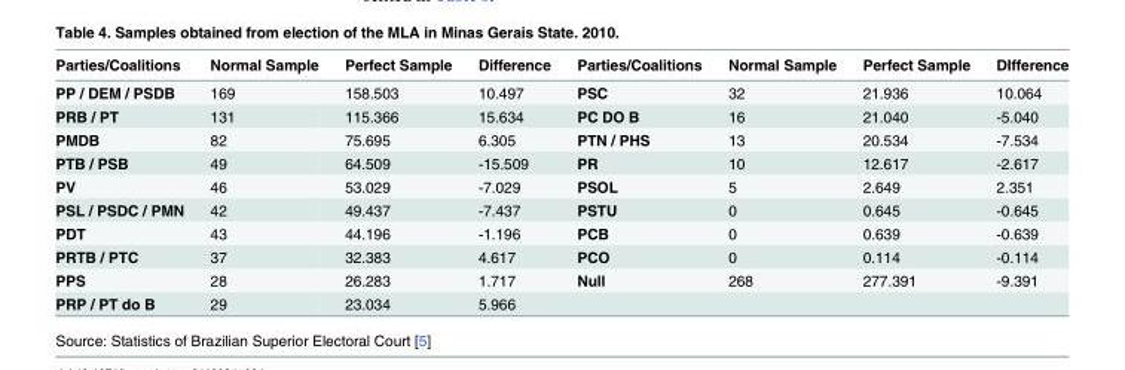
<table><thead><tr><td>Parties/Coalitions</td><td>Normal Sample</td><td>Perfect Sample</td><td>Difference</td><td>Parties/Coalitions</td><td>Normal Sample</td><td>Perfect Sample</td><td>DIfference</td></tr></thead><tbody><tr><td>PP / DEM / PSDB</td><td>169</td><td>158.503</td><td>10.497</td><td>PSC</td><td>32</td><td>21.936</td><td>10.064</td></tr><tr><td>PRB / PT</td><td>131</td><td>115.366</td><td>15.634</td><td>PC DO B</td><td>16</td><td>21.040</td><td>-5.040</td></tr><tr><td>PMDB</td><td>82</td><td>75.695</td><td>6.305</td><td>PTN / PHS</td><td>13</td><td>20.534</td><td>-7.534</td></tr><tr><td>PTB / PSB</td><td>49</td><td>64.509</td><td>-15.509</td><td>PR</td><td>10</td><td>12.617</td><td>-2.617</td></tr><tr><td>PV</td><td>46</td><td>53.029</td><td>-7.029</td><td>PSOL</td><td>5</td><td>2.649</td><td>2.351</td></tr><tr><td>PSL / PSDC / PMN</td><td>42</td><td>49.437</td><td>-7.437</td><td>PSTU</td><td>0</td><td>0.645</td><td>-0.645</td></tr><tr><td>PDT</td><td>43</td><td>44.196</td><td>-1.196</td><td>PCB</td><td>0</td><td>0.639</td><td>-0.639</td></tr><tr><td>PRTB / PTC</td><td>37</td><td>32.383</td><td>4.617</td><td>PCO</td><td>0</td><td>0.114</td><td>-0.114</td></tr><tr><td>PPS</td><td>28</td><td>26.283</td><td>1.717</td><td>Null</td><td>268</td><td>277.391</td><td>-9.391</td></tr><tr><td>PRP / PT do B</td><td>29</td><td>23.034</td><td>5.966</td><td></td><td></td><td></td><td></td></tr></tbody></table>